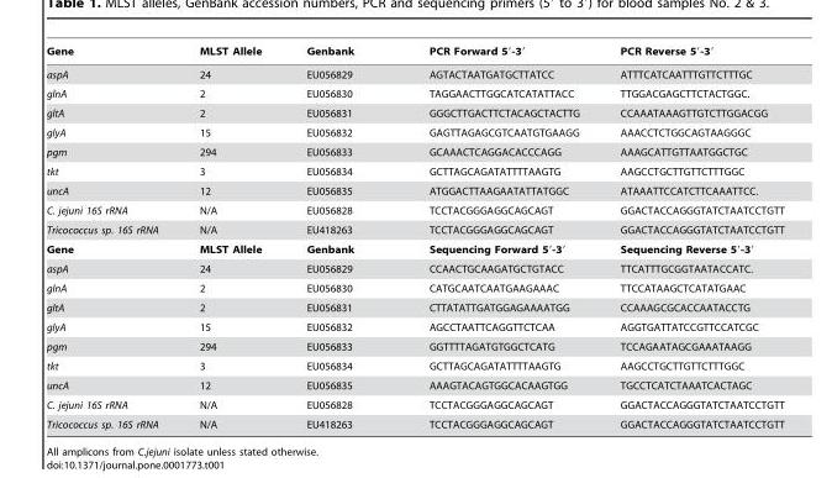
<table><thead><tr><td>Gene</td><td>MLST Allele</td><td>Genbank</td><td>PCR Forward 5′-3′</td><td>PCR Reverse 5′-3′</td></tr></thead><tbody><tr><td>aspA</td><td>24</td><td>EU056829</td><td>AGTACTAATGATGCTTATCC</td><td>ATTTCATCAATTTGTTCTTTGC</td></tr><tr><td>glnA</td><td>2</td><td>EU056830</td><td>TAGGAACTTGGCATCATATTACC</td><td>TTGGACGAGCTTCTACTGGC.</td></tr><tr><td>gltA</td><td>2</td><td>EU056831</td><td>GGGCTTGACTTCTACAGCTACTTG</td><td>CCAAATAAAGTTGTCTTGGACGG</td></tr><tr><td>glyA</td><td>15</td><td>EU056832</td><td>GAGTTAGAGCGTCAATGTGAAGG</td><td>AAACCTCTGGCAGTAAGGGC</td></tr><tr><td>pgm</td><td>294</td><td>EU056833</td><td>GCAAACTCAGGACACCCAGG</td><td>AAAGCATTGTTAATGGCTGC</td></tr><tr><td>tkt</td><td>3</td><td>EU056834</td><td>GCTTAGCAGATATTTTAAGTG</td><td>AAGCCTGCTTGTTCTTTGGC</td></tr><tr><td>uncA</td><td>12</td><td>EU056835</td><td>ATGGACTTAAGAATATTATGGC</td><td>ATAAATTCCATCTTCAAATTCC.</td></tr><tr><td>C. jejuni 16S rRNA</td><td>N/A</td><td>EU056828</td><td>TCCTACGGGAGGCAGCAGT</td><td>GGACTACCAGGGTATCTAATCCTGTT</td></tr><tr><td>Tricococcus sp. 16S rRNA</td><td>N/A</td><td>EU418263</td><td>TCCTACGGGAGGCAGCAGT</td><td>GGACTACCAGGGTATCTAATCCTGTT</td></tr><tr><td>Gene</td><td>MLST Allele</td><td>Genbank</td><td>Sequencing Forward 5′-3′</td><td>Sequencing Reverse 5′-3′</td></tr><tr><td>aspA</td><td>24</td><td>EU056829</td><td>CCAACTGCAAGATGCTGTACC</td><td>TTCATTTGCGGTAATACCATC.</td></tr><tr><td>glnA</td><td>2</td><td>EU056830</td><td>CATGCAATCAATGAAGAAAC</td><td>TTCCATAAGCTCATATGAAC</td></tr><tr><td>gltA</td><td>2</td><td>EU056831</td><td>CTTATATTGATGGAGAAAATGG</td><td>CCAAAGCGCACCAATACCTG</td></tr><tr><td>glyA</td><td>15</td><td>EU056832</td><td>AGCCTAATTCAGGTTCTCAA</td><td>AGGTGATTATCCGTTCCATCGC</td></tr><tr><td>pgm</td><td>294</td><td>EU056833</td><td>GGTTTTAGATGTGGCTCATG</td><td>TCCAGAATAGCGAAATAAGG</td></tr><tr><td>tkt</td><td>3</td><td>EU056834</td><td>GCTTAGCAGATATTTTAAGTG</td><td>AAGCCTGCTTGTTCTTTGGC</td></tr><tr><td>uncA</td><td>12</td><td>EU056835</td><td>AAAGTACAGTGGCACAAGTGG</td><td>TGCCTCATCTAAATCACTAGC</td></tr><tr><td>C. jejuni 16S rRNA</td><td>N/A</td><td>EU056828</td><td>TCCTACGGGAGGCAGCAGT</td><td>GGACTACCAGGGTATCTAATCCTGTT</td></tr><tr><td>Tricococcus sp. 16S rRNA</td><td>N/A</td><td>EU418263</td><td>TCCTACGGGAGGCAGCAGT</td><td>GGACTACCAGGGTATCTAATCCTGTT</td></tr></tbody></table>